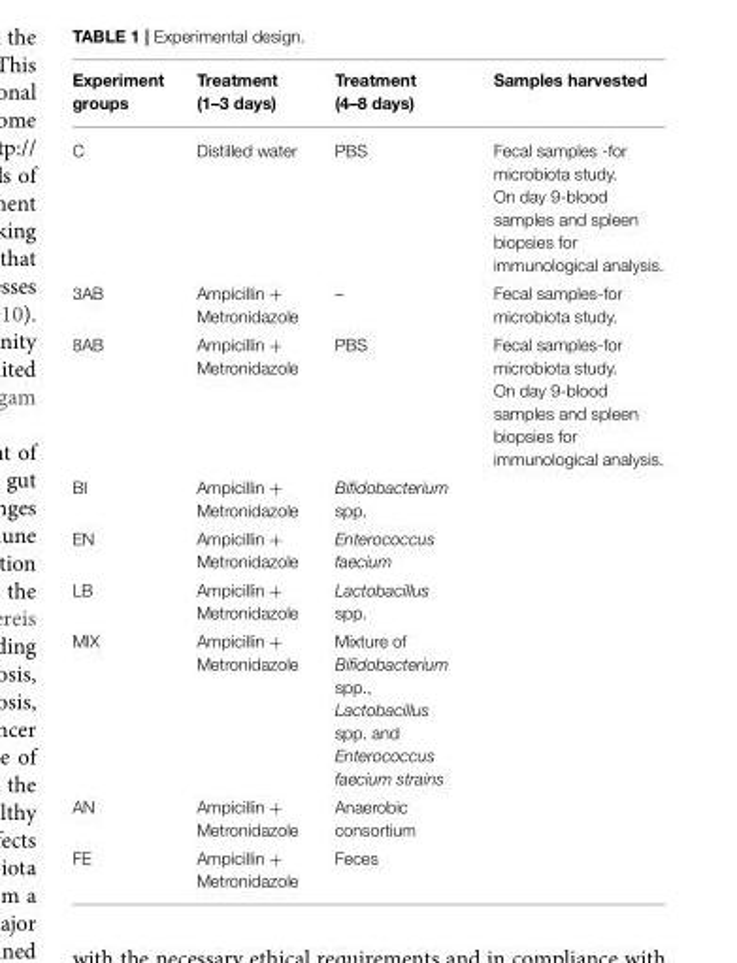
<table><thead><tr><td>Experiment groups</td><td>Treatment (1–3 days)</td><td>Treatment (4–8 days)</td><td>Samples harvested</td></tr></thead><tbody><tr><td>C</td><td>Distilled water</td><td>PBS</td><td>Fecal samples -for microbiota study. On day 9-blood samples and spleen biopsies for immunological analysis.</td></tr><tr><td>3AB</td><td>Ampicillin + Metronidazole</td><td>–</td><td>Fecal samples-for microbiota study.</td></tr><tr><td>8AB</td><td>Ampicillin + Metronidazole</td><td>PBS</td><td>Fecal samples-for microbiota study. On day 9-blood samples and spleen biopsies for immunological analysis.</td></tr><tr><td>BI</td><td>Ampicillin + Metronidazole</td><td>Bifidobacterium spp.</td><td></td></tr><tr><td>EN</td><td>Ampicillin + Metronidazole</td><td>Enterococcus faecium</td><td></td></tr><tr><td>LB</td><td>Ampicillin + Metronidazole</td><td>Lactobacillus spp.</td><td></td></tr><tr><td>MIX</td><td>Ampicillin + Metronidazole</td><td>Mixture of Bifidobacterium spp., Lactobacillus spp. and Enterococcus faecium strains</td><td></td></tr><tr><td>AN</td><td>Ampicillin + Metronidazole</td><td>Anaerobic consortium</td><td></td></tr><tr><td>FE</td><td>Ampicillin + Metronidazole</td><td>Feces</td><td></td></tr></tbody></table>